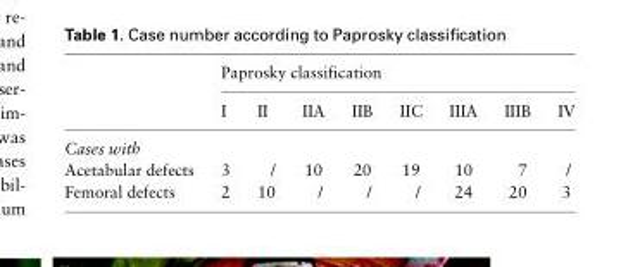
<table><thead><tr><td rowspan="2"></td><td colspan="8">Paprosky classification</td></tr><tr><td>I</td><td>II</td><td>IIA</td><td>IIB</td><td>IIC</td><td>IIIA</td><td>IIIB</td><td>IV</td></tr></thead><tbody><tr><td colspan="9">Cases with</td></tr><tr><td>Acetabular defects</td><td>3</td><td>/</td><td>10</td><td>20</td><td>19</td><td>10</td><td>7</td><td>/</td></tr><tr><td>Femoral defects</td><td>2</td><td>10</td><td>/</td><td>/</td><td>/</td><td>24</td><td>20</td><td>3</td></tr></tbody></table>